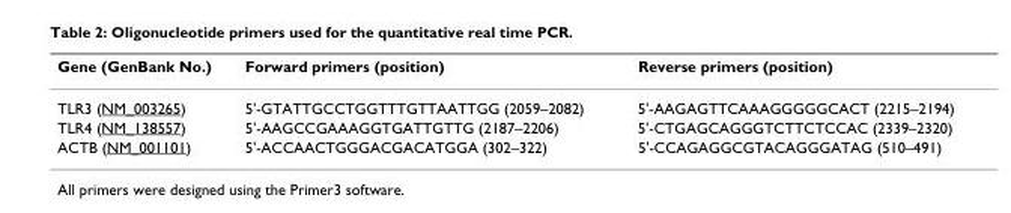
<table><thead><tr><td>Gene (GenBank No.)</td><td>Forward primers (position)</td><td>Reverse primers (position)</td></tr></thead><tbody><tr><td>TLR3 (NM_003265)</td><td>5&#x27;-GTATTGCCTGGTTTGTTAATTGG (2059–2082)</td><td>5&#x27;-AAGAGTTCAAAGGGGGCACT (2215–2194)</td></tr><tr><td>TLR4 (NM_138557)</td><td>5&#x27;-AAGCCGAAAGGTGATTGTTG (2187–2206)</td><td>5&#x27;-CTGAGCAGGGTCTTCTCCAC (2339–2320)</td></tr><tr><td>ACTB (NM_001101)</td><td>5&#x27;-ACCAACTGGGACGACATGGA (302–322)</td><td>5&#x27;-CCAGAGGCGTACAGGGATAG (510–491)</td></tr></tbody></table>